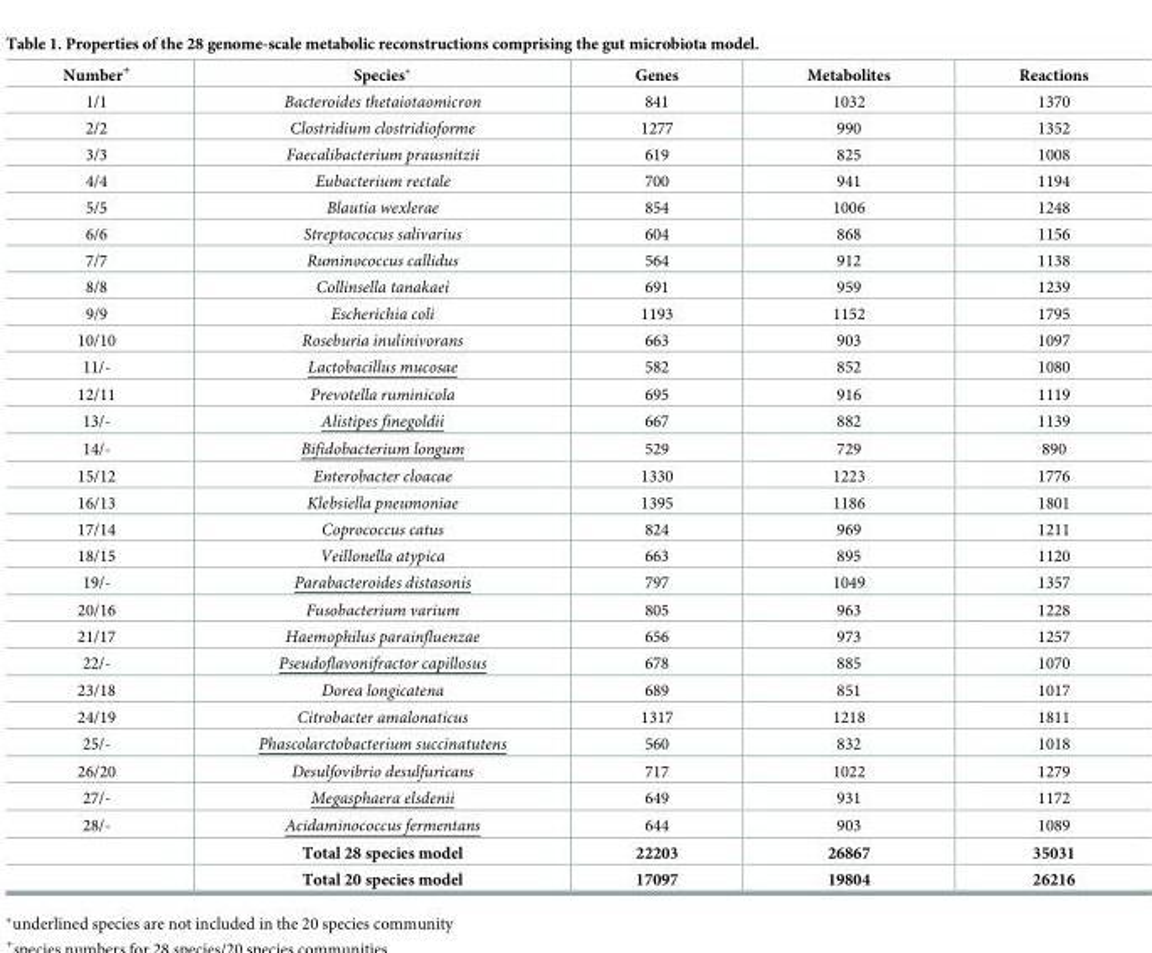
<table><thead><tr><td>Number<sup>+</sup></td><td>Species*</td><td>Genes</td><td>Metabolites</td><td>Reactions</td></tr></thead><tbody><tr><td>1/1</td><td>Bacteroides thetaiotaomicron</td><td>841</td><td>1032</td><td>1370</td></tr><tr><td>2/2</td><td>Clostridium clostridioforme</td><td>1277</td><td>990</td><td>1352</td></tr><tr><td>3/3</td><td>Faecalibacterium prausnitzii</td><td>619</td><td>825</td><td>1008</td></tr><tr><td>4/4</td><td>Eubacterium rectale</td><td>700</td><td>941</td><td>1194</td></tr><tr><td>5/5</td><td>Blautia wexlerae</td><td>854</td><td>1006</td><td>1248</td></tr><tr><td>6/6</td><td>Streptococcus salivarius</td><td>604</td><td>868</td><td>1156</td></tr><tr><td>7/7</td><td>Ruminococcus callidus</td><td>564</td><td>912</td><td>1138</td></tr><tr><td>8/8</td><td>Collinsella tanakaei</td><td>691</td><td>959</td><td>1239</td></tr><tr><td>9/9</td><td>Escherichia coli</td><td>1193</td><td>1152</td><td>1795</td></tr><tr><td>10/10</td><td>Roseburia inulinivorans</td><td>663</td><td>903</td><td>1097</td></tr><tr><td>11/-</td><td>Lactobacillus mucosae</td><td>582</td><td>852</td><td>1080</td></tr><tr><td>12/11</td><td>Prevotella ruminicola</td><td>695</td><td>916</td><td>1119</td></tr><tr><td>13/-</td><td>Alistipes finegoldii</td><td>667</td><td>882</td><td>1139</td></tr><tr><td>14/-</td><td>Bifidobacterium longum</td><td>529</td><td>729</td><td>890</td></tr><tr><td>15/12</td><td>Enterobacter cloacae</td><td>1330</td><td>1223</td><td>1776</td></tr><tr><td>16/13</td><td>Klebsiella pneumoniae</td><td>1395</td><td>1186</td><td>1801</td></tr><tr><td>17/14</td><td>Coprococcus catus</td><td>824</td><td>969</td><td>1211</td></tr><tr><td>18/15</td><td>Veillonella atypica</td><td>663</td><td>895</td><td>1120</td></tr><tr><td>19/-</td><td>Parabacteroides distasonis</td><td>797</td><td>1049</td><td>1357</td></tr><tr><td>20/16</td><td>Fusobacterium varium</td><td>805</td><td>963</td><td>1228</td></tr><tr><td>21/17</td><td>Haemophilus parainfluenzae</td><td>656</td><td>973</td><td>1257</td></tr><tr><td>22/-</td><td>Pseudoflavonifractor capillosus</td><td>678</td><td>885</td><td>1070</td></tr><tr><td>23/18</td><td>Dorea longicatena</td><td>689</td><td>851</td><td>1017</td></tr><tr><td>24/19</td><td>Citrobacter amalonaticus</td><td>1317</td><td>1218</td><td>1811</td></tr><tr><td>25/-</td><td>Phascolarctobacterium succinatutens</td><td>560</td><td>832</td><td>1018</td></tr><tr><td>26/20</td><td>Desulfovibrio desulfuricans</td><td>717</td><td>1022</td><td>1279</td></tr><tr><td>27/-</td><td>Megasphaera elsdenii</td><td>649</td><td>931</td><td>1172</td></tr><tr><td rowspan="3">28/-</td><td>Acidaminococcus fermentans</td><td>644</td><td>903</td><td>1089</td></tr><tr><td>Total 28 species model</td><td>22203</td><td>26867</td><td>35031</td></tr><tr><td>Total 20 species model</td><td>17097</td><td>19804</td><td>26216</td></tr></tbody></table>